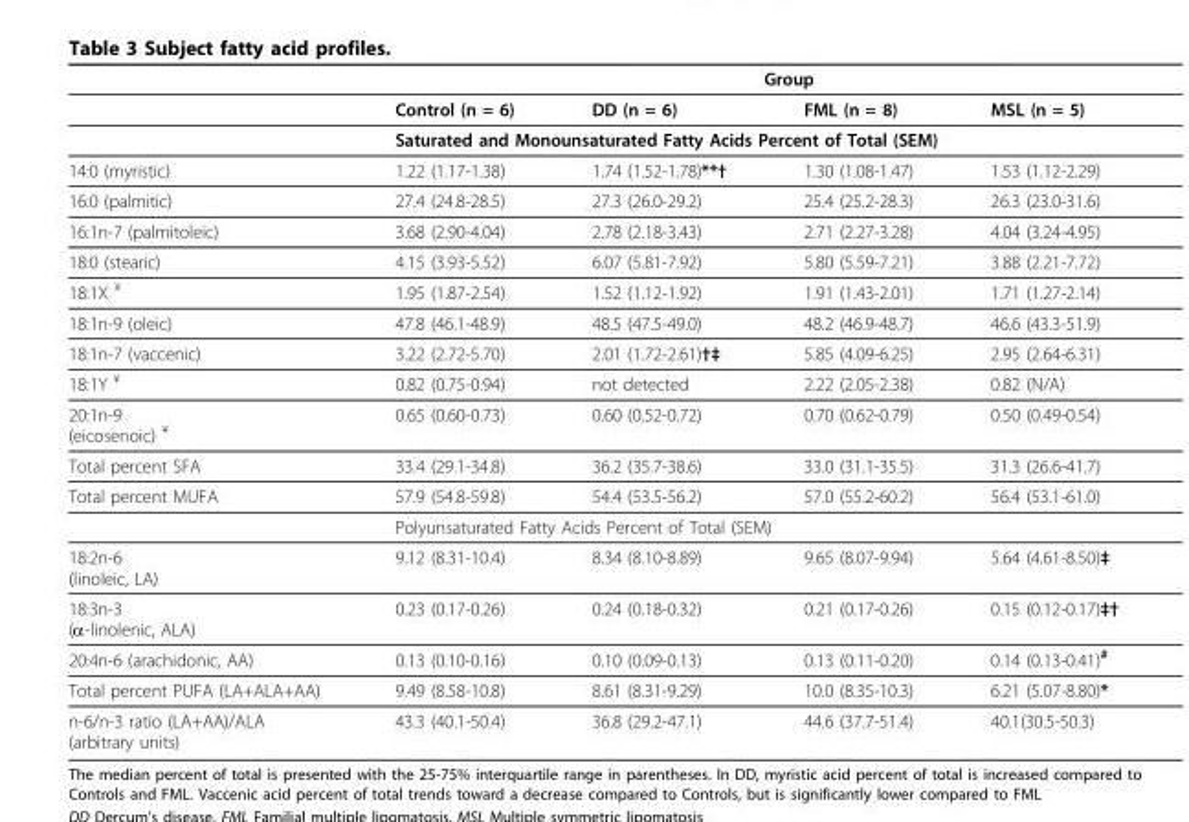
<table><thead><tr><td rowspan="2"></td><td colspan="4">Group</td></tr><tr><td>Control (n = 6)</td><td>DD (n = 6)</td><td>FML (n = 8)</td><td>MSL (n = 5)</td></tr></thead><tbody><tr><td></td><td colspan="4">Saturated and Monounsaturated Fatty Acids Percent of Total (SEM)</td></tr><tr><td>14:0 (myristic)</td><td>1.22 (1.17-1.38)</td><td>1.74 (1.52-1.78)**†</td><td>1.30 (1.08-1.47)</td><td>1.53 (1.12-2.29)</td></tr><tr><td>16:0 (palmitic)</td><td>27.4 (24.8-28.5)</td><td>27.3 (26.0-29.2)</td><td>25.4 (25.2-28.3)</td><td>26.3 (23.0-31.6)</td></tr><tr><td>16:1n-7 (palmitoleic)</td><td>3.68 (2.90-4.04)</td><td>2.78 (2.18-3.43)</td><td>2.71 (2.27-3.28)</td><td>4.04 (3.24-4.95)</td></tr><tr><td>18:0 (stearic)</td><td>4.15 (3.93-5.52)</td><td>6.07 (5.81-7.92)</td><td>5.80 (5.59-7.21)</td><td>3.88 (2.21-7.72)</td></tr><tr><td>18:1X ¥</td><td>1.95 (1.87-2.54)</td><td>1.52 (1.12-1.92)</td><td>1.91 (1.43-2.01)</td><td>1.71 (1.27-2.14)</td></tr><tr><td>18:1n-9 (oleic)</td><td>47.8 (46.1-48.9)</td><td>48.5 (47.5-49.0)</td><td>48.2 (46.9-48.7)</td><td>46.6 (43.3-51.9)</td></tr><tr><td>18:1n-7 (vaccenic)</td><td>3.22 (2.72-5.70)</td><td>2.01 (1.72-2.61)†‡</td><td>5.85 (4.09-6.25)</td><td>2.95 (2.64-6.31)</td></tr><tr><td>18:1Y ¥</td><td>0.82 (0.75-0.94)</td><td>not detected</td><td>2.22 (2.05-2.38)</td><td>0.82 (N/A)</td></tr><tr><td>20:1n-9 (eicosenoic) ¥</td><td>0.65 (0.60-0.73)</td><td>0.60 (0.52-0.72)</td><td>0.70 (0.62-0.79)</td><td>0.50 (0.49-0.54)</td></tr><tr><td>Total percent SFA</td><td>33.4 (29.1-34.8)</td><td>36.2 (35.7-38.6)</td><td>33.0 (31.1-35.5)</td><td>31.3 (26.6-41.7)</td></tr><tr><td rowspan="2">Total percent MUFA</td><td>57.9 (54.8-59.8)</td><td>54.4 (53.5-56.2)</td><td>57.0 (55.2-60.2)</td><td>56.4 (53.1-61.0)</td></tr><tr><td colspan="4">Polyunsaturated Fatty Acids Percent of Total (SEM)</td></tr><tr><td>18:2n-6 (linoleic, LA)</td><td>9.12 (8.31-10.4)</td><td>8.34 (8.10-8.89)</td><td>9.65 (8.07-9.94)</td><td>5.64 (4.61-8.50)‡</td></tr><tr><td>18:3n-3 (α-linolenic, ALA)</td><td>0.23 (0.17-0.26)</td><td>0.24 (0.18-0.32)</td><td>0.21 (0.17-0.26)</td><td>0.15 (0.12-0.17)‡†</td></tr><tr><td>20:4n-6 (arachidonic, AA)</td><td>0.13 (0.10-0.16)</td><td>0.10 (0.09-0.13)</td><td>0.13 (0.11-0.20)</td><td>0.14 (0.13-0.41)#</td></tr><tr><td>Total percent PUFA (LA+ALA+AA)</td><td>9.49 (8.58-10.8)</td><td>8.61 (8.31-9.29)</td><td>10.0 (8.35-10.3)</td><td>6.21 (5.07-8.80)*</td></tr><tr><td>n-6/n-3 ratio (LA+AA)/ALA (arbitrary units)</td><td>43.3 (40.1-50.4)</td><td>36.8 (29.2-47.1)</td><td>44.6 (37.7-51.4)</td><td>40.1(30.5-50.3)</td></tr></tbody></table>